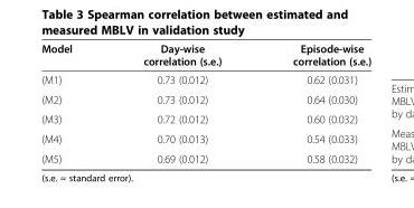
<table><thead><tr><td>Model</td><td>Day-wise correlation (s.e.)</td><td>Episode-wise correlation (s.e.)</td></tr></thead><tbody><tr><td>(M1)</td><td>0.73 (0.012)</td><td>0.62 (0.031)</td></tr><tr><td>(M2)</td><td>0.73 (0.012)</td><td>0.64 (0.030)</td></tr><tr><td>(M3)</td><td>0.72 (0.012)</td><td>0.60 (0.032)</td></tr><tr><td>(M4)</td><td>0.70 (0.013)</td><td>0.54 (0.033)</td></tr><tr><td>(M5)</td><td>0.69 (0.012)</td><td>0.58 (0.032)</td></tr></tbody></table>